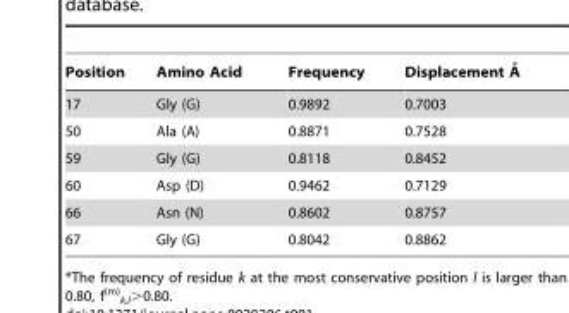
<table><thead><tr><td>Position</td><td>Amino Acid</td><td>Frequency</td><td>Displacement</td></tr></thead><tbody><tr><td>17</td><td>Gly (G)</td><td>0.9892</td><td>0.7003</td></tr><tr><td>50</td><td>Ala (A)</td><td>0.8871</td><td>0.7528</td></tr><tr><td>59</td><td>Gly (G)</td><td>0.8118</td><td>0.8452</td></tr><tr><td>60</td><td>Asp (D)</td><td>0.9462</td><td>0.7129</td></tr><tr><td>66</td><td>Asn (N)</td><td>0.8602</td><td>0.8757</td></tr><tr><td>67</td><td>Gly (G)</td><td>0.8042</td><td>0.8862</td></tr></tbody></table>